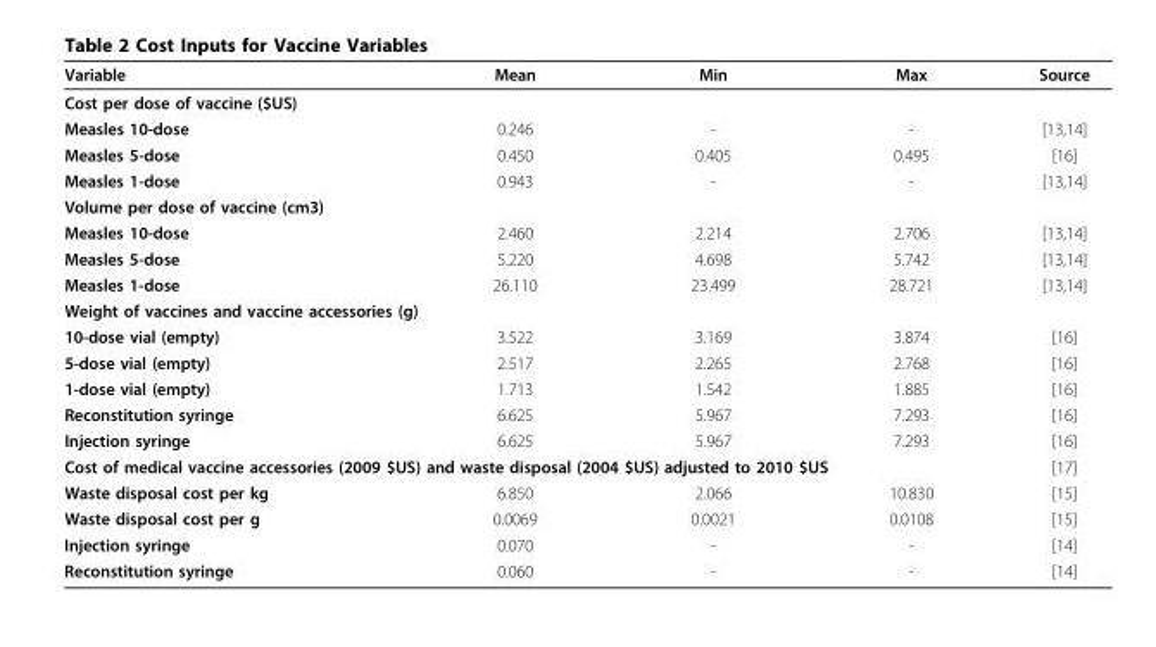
<table><thead><tr><td>Variable</td><td>Mean</td><td>Min</td><td>Max</td><td>Source</td></tr></thead><tbody><tr><td colspan="5">Cost per dose of vaccine ($US)</td></tr><tr><td>Measles 10-dose</td><td>0.246</td><td>-</td><td>-</td><td>[13,14]</td></tr><tr><td>Measles 5-dose</td><td>0.450</td><td>0.405</td><td>0.495</td><td>[16]</td></tr><tr><td>Measles 1-dose</td><td>0.943</td><td>-</td><td>-</td><td>[13,14]</td></tr><tr><td colspan="5">Volume per dose of vaccine (cm3)</td></tr><tr><td>Measles 10-dose</td><td>2.460</td><td>2.214</td><td>2.706</td><td>[13,14]</td></tr><tr><td>Measles 5-dose</td><td>5.220</td><td>4.698</td><td>5.742</td><td>[13,14]</td></tr><tr><td>Measles 1-dose</td><td>26.110</td><td>23.499</td><td>28.721</td><td>[13,14]</td></tr><tr><td colspan="5">Weight of vaccines and vaccine accessories (g)</td></tr><tr><td>10-dose vial (empty)</td><td>3.522</td><td>3.169</td><td>3.874</td><td>[16]</td></tr><tr><td>5-dose vial (empty)</td><td>2.517</td><td>2.265</td><td>2.768</td><td>[16]</td></tr><tr><td>1-dose vial (empty)</td><td>1.713</td><td>1.542</td><td>1.885</td><td>[16]</td></tr><tr><td>Reconstitution syringe</td><td>6.625</td><td>5.967</td><td>7.293</td><td>[16]</td></tr><tr><td>Injection syringe</td><td>6.625</td><td>5.967</td><td>7.293</td><td>[16]</td></tr><tr><td colspan="4">Cost of medical vaccine accessories (2009 $US) and waste disposal (2004 $US) adjusted to 2010 $US</td><td>[17]</td></tr><tr><td>Waste disposal cost per kg</td><td>6.850</td><td>2.066</td><td>10.830</td><td>[15]</td></tr><tr><td>Waste disposal cost per g</td><td>0.0069</td><td>0.0021</td><td>0.0108</td><td>[15]</td></tr><tr><td>Injection syringe</td><td>0.070</td><td>-</td><td>-</td><td>[14]</td></tr><tr><td>Reconstitution syringe</td><td>0.060</td><td>-</td><td>-</td><td>[14]</td></tr></tbody></table>